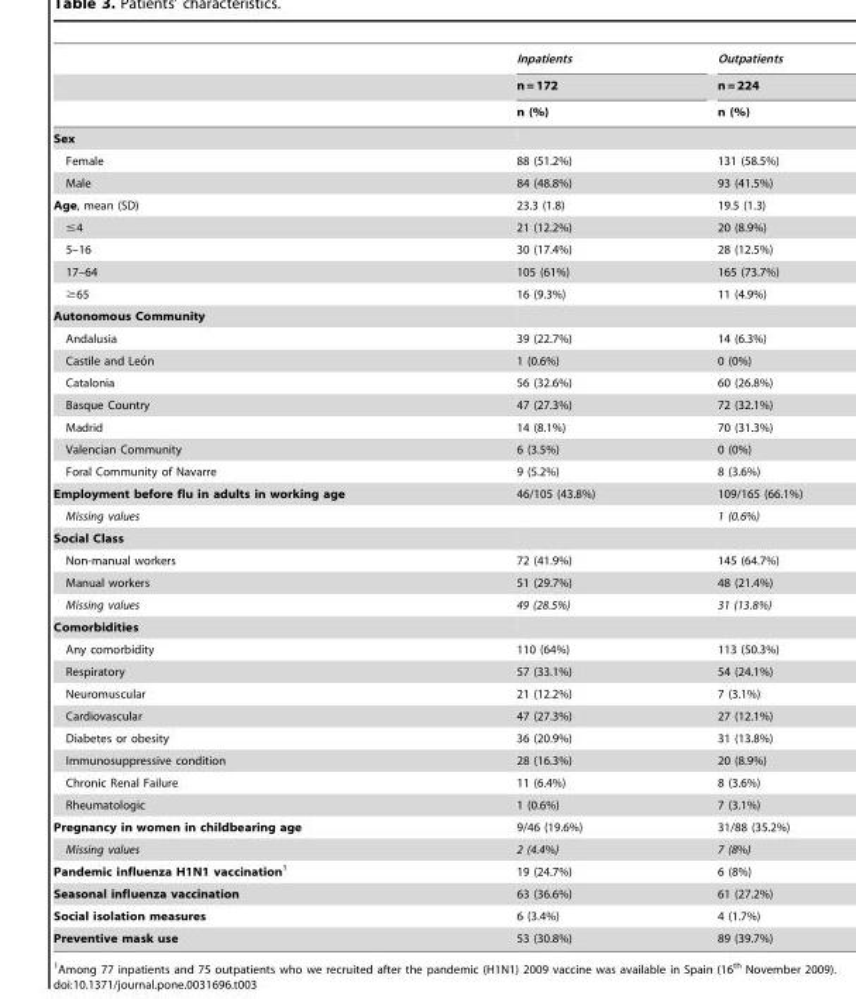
<table><thead><tr><td rowspan="3"></td><td rowspan="3">Inpatients n = 172 n (%)</td><td rowspan="3">Outpatients n = 224 n (%)</td></tr><tr></tr><tr></tr></thead><tbody><tr><td colspan="3">Sex</td></tr><tr><td>Female</td><td>88 (51.2%)</td><td>131 (58.5%)</td></tr><tr><td>Male</td><td>84 (48.8%)</td><td>93 (41.5%)</td></tr><tr><td>Age, mean (SD)</td><td>23.3 (1.8)</td><td>19.5 (1.3)</td></tr><tr><td>≤4</td><td>21 (12.2%)</td><td>20 (8.9%)</td></tr><tr><td>5–16</td><td>30 (17.4%)</td><td>28 (12.5%)</td></tr><tr><td>17–64</td><td>105 (61%)</td><td>165 (73.7%)</td></tr><tr><td>≥65</td><td>16 (9.3%)</td><td>11 (4.9%)</td></tr><tr><td colspan="3">Autonomous Community</td></tr><tr><td>Andalusia</td><td>39 (22.7%)</td><td>14 (6.3%)</td></tr><tr><td>Castile and Leo´n</td><td>1 (0.6%)</td><td>0 (0%)</td></tr><tr><td>Catalonia</td><td>56 (32.6%)</td><td>60 (26.8%)</td></tr><tr><td>Basque Country</td><td>47 (27.3%)</td><td>72 (32.1%)</td></tr><tr><td>Madrid</td><td>14 (8.1%)</td><td>70 (31.3%)</td></tr><tr><td>Valencian Community</td><td>6 (3.5%)</td><td>0 (0%)</td></tr><tr><td>Foral Community of Navarre</td><td>9 (5.2%)</td><td>8 (3.6%)</td></tr><tr><td>Employment before flu in adults in working age</td><td>46/105 (43.8%)</td><td>109/165 (66.1%)</td></tr><tr><td>Missing values</td><td></td><td>1 (0.6%)</td></tr><tr><td colspan="3">Social Class</td></tr><tr><td>Non-manual workers</td><td>72 (41.9%)</td><td>145 (64.7%)</td></tr><tr><td>Manual workers</td><td>51 (29.7%)</td><td>48 (21.4%)</td></tr><tr><td>Missing values</td><td>49 (28.5%)</td><td>31 (13.8%)</td></tr><tr><td colspan="3">Comorbidities</td></tr><tr><td>Any comorbidity</td><td>110 (64%)</td><td>113 (50.3%)</td></tr><tr><td>Respiratory</td><td>57 (33.1%)</td><td>54 (24.1%)</td></tr><tr><td>Neuromuscular</td><td>21 (12.2%)</td><td>7 (3.1%)</td></tr><tr><td>Cardiovascular</td><td>47 (27.3%)</td><td>27 (12.1%)</td></tr><tr><td>Diabetes or obesity</td><td>36 (20.9%)</td><td>31 (13.8%)</td></tr><tr><td>Immunosuppressive condition</td><td>28 (16.3%)</td><td>20 (8.9%)</td></tr><tr><td>Chronic Renal Failure</td><td>11 (6.4%)</td><td>8 (3.6%)</td></tr><tr><td>Rheumatologic</td><td>1 (0.6%)</td><td>7 (3.1%)</td></tr><tr><td>Pregnancy in women in childbearing age</td><td>9/46 (19.6%)</td><td>31/88 (35.2%)</td></tr><tr><td>Missing values</td><td>2 (4.4%)</td><td>7 (8%)</td></tr><tr><td>Pandemic influenza H1N1 vaccination1</td><td>19 (24.7%)</td><td>6 (8%)</td></tr><tr><td>Seasonal influenza vaccination</td><td>63 (36.6%)</td><td>61 (27.2%)</td></tr><tr><td>Social isolation measures</td><td>6 (3.4%)</td><td>4 (1.7%)</td></tr><tr><td>Preventive mask use</td><td>53 (30.8%)</td><td>89 (39.7%)</td></tr></tbody></table>